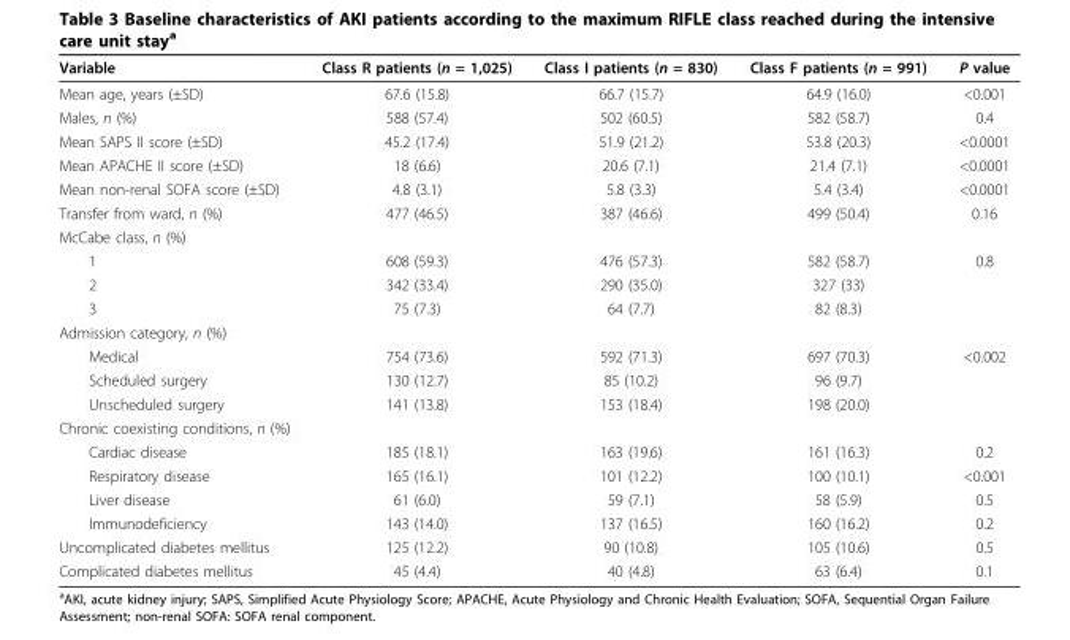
<table><thead><tr><td>Variable</td><td>Class R patients (n = 1,025)</td><td>Class I patients (n = 830)</td><td>Class F patients (n = 991)</td><td>P value</td></tr></thead><tbody><tr><td>Mean age, years (±SD)</td><td>67.6 (15.8)</td><td>66.7 (15.7)</td><td>64.9 (16.0)</td><td>&lt;0.001</td></tr><tr><td>Males, n (%)</td><td>588 (57.4)</td><td>502 (60.5)</td><td>582 (58.7)</td><td>0.4</td></tr><tr><td>Mean SAPS II score (±SD)</td><td>45.2 (17.4)</td><td>51.9 (21.2)</td><td>53.8 (20.3)</td><td>&lt;0.0001</td></tr><tr><td>Mean APACHE II score (±SD)</td><td>18 (6.6)</td><td>20.6 (7.1)</td><td>21.4 (7.1)</td><td>&lt;0.0001</td></tr><tr><td>Mean non-renal SOFA score (±SD)</td><td>4.8 (3.1)</td><td>5.8 (3.3)</td><td>5.4 (3.4)</td><td>&lt;0.0001</td></tr><tr><td>Transfer from ward, n (%)</td><td>477 (46.5)</td><td>387 (46.6)</td><td>499 (50.4)</td><td>0.16</td></tr><tr><td colspan="5">McCabe class, n (%)</td></tr><tr><td>1</td><td>608 (59.3)</td><td>476 (57.3)</td><td>582 (58.7)</td><td>0.8</td></tr><tr><td>2</td><td>342 (33.4)</td><td>290 (35.0)</td><td>327 (33)</td><td></td></tr><tr><td>3</td><td>75 (7.3)</td><td>64 (7.7)</td><td>82 (8.3)</td><td></td></tr><tr><td colspan="5">Admission category, n (%)</td></tr><tr><td>Medical</td><td>754 (73.6)</td><td>592 (71.3)</td><td>697 (70.3)</td><td>&lt;0.002</td></tr><tr><td>Scheduled surgery</td><td>130 (12.7)</td><td>85 (10.2)</td><td>96 (9.7)</td><td></td></tr><tr><td>Unscheduled surgery</td><td>141 (13.8)</td><td>153 (18.4)</td><td>198 (20.0)</td><td></td></tr><tr><td colspan="5">Chronic coexisting conditions, n (%)</td></tr><tr><td>Cardiac disease</td><td>185 (18.1)</td><td>163 (19.6)</td><td>161 (16.3)</td><td>0.2</td></tr><tr><td>Respiratory disease</td><td>165 (16.1)</td><td>101 (12.2)</td><td>100 (10.1)</td><td>&lt;0.001</td></tr><tr><td>Liver disease</td><td>61 (6.0)</td><td>59 (7.1)</td><td>58 (5.9)</td><td>0.5</td></tr><tr><td>Immunodeficiency</td><td>143 (14.0)</td><td>137 (16.5)</td><td>160 (16.2)</td><td>0.2</td></tr><tr><td>Uncomplicated diabetes mellitus</td><td>125 (12.2)</td><td>90 (10.8)</td><td>105 (10.6)</td><td>0.5</td></tr><tr><td>Complicated diabetes mellitus</td><td>45 (4.4)</td><td>40 (4.8)</td><td>63 (6.4)</td><td>0.1</td></tr></tbody></table>